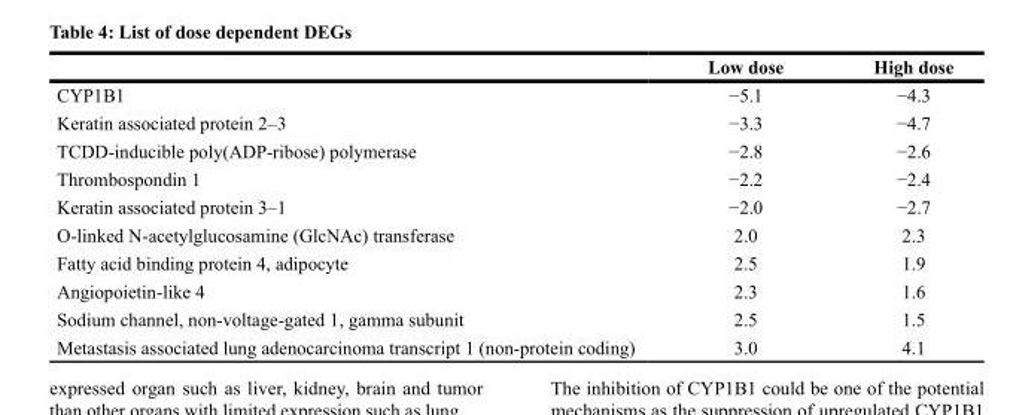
<table><thead><tr><td></td><td>Low dose</td><td>High dose</td></tr></thead><tbody><tr><td>CYP1B1</td><td>−5.1</td><td>−4.3</td></tr><tr><td>Keratin associated protein 2–3</td><td>−3.3</td><td>−4.7</td></tr><tr><td>TCDD-inducible poly(ADP-ribose) polymerase</td><td>−2.8</td><td>−2.6</td></tr><tr><td>Thrombospondin 1</td><td>−2.2</td><td>−2.4</td></tr><tr><td>Keratin associated protein 3–1</td><td>−2.0</td><td>−2.7</td></tr><tr><td>O-linked N-acetylglucosamine (GlcNAc) transferase</td><td>2.0</td><td>2.3</td></tr><tr><td>Fatty acid binding protein 4, adipocyte</td><td>2.5</td><td>1.9</td></tr><tr><td>Angiopoietin-like 4</td><td>2.3</td><td>1.6</td></tr><tr><td>Sodium channel, non-voltage-gated 1, gamma subunit</td><td>2.5</td><td>1.5</td></tr><tr><td>Metastasis associated lung adenocarcinoma transcript 1 (non-protein coding)</td><td>3.0</td><td>4.1</td></tr></tbody></table>